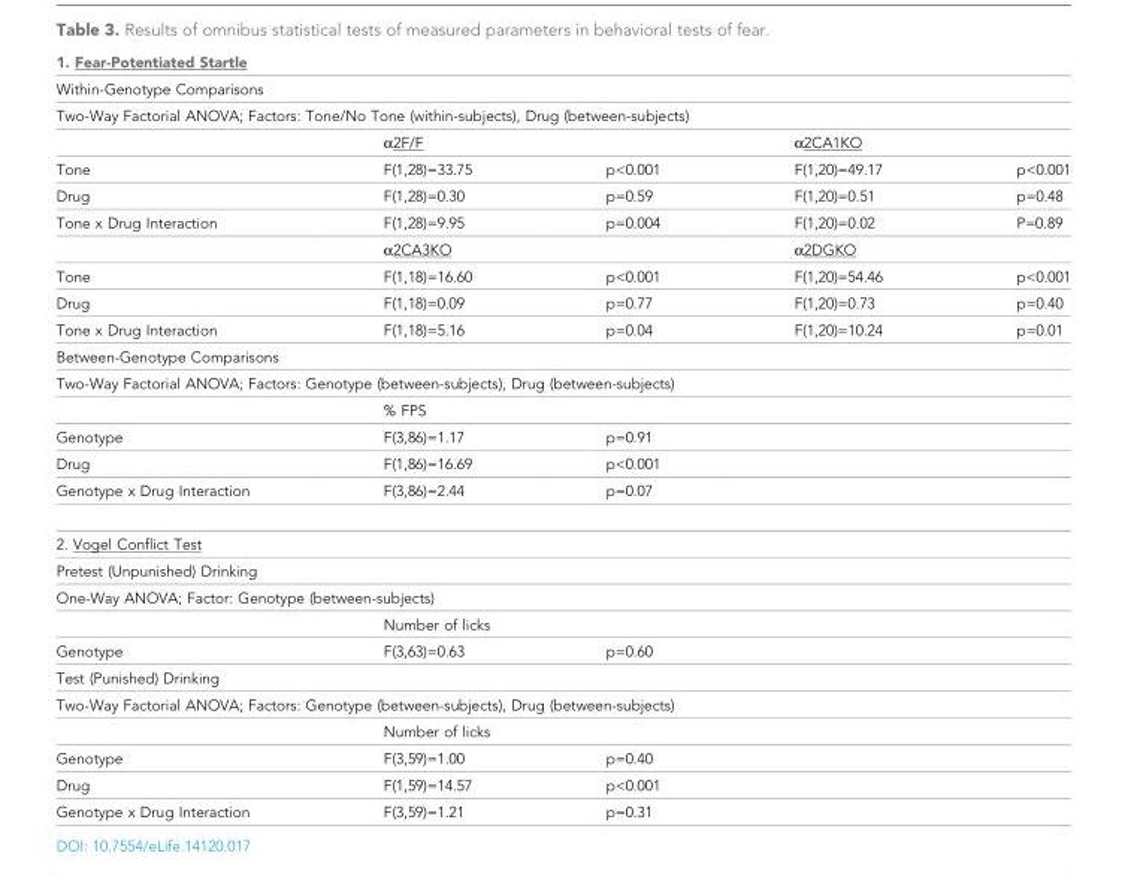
<table><thead><tr><td colspan="5">1. Fear-Potentiated Startle</td></tr></thead><tbody><tr><td colspan="5">Within-Genotype Comparisons</td></tr><tr><td colspan="5">Two-Way Factorial ANOVA; Factors: Tone/No Tone (within-subjects), Drug (between-subjects)</td></tr><tr><td></td><td colspan="2">α2F/F</td><td colspan="2">α2CA1KO</td></tr><tr><td>Tone</td><td>F(1,28)=33.75</td><td>p&lt;0.001</td><td>F(1,20)=49.17</td><td>p&lt;0.001</td></tr><tr><td>Drug</td><td>F(1,28)=0.30</td><td>p=0.59</td><td>F(1,20)=0.51</td><td>p=0.48</td></tr><tr><td rowspan="2">Tone x Drug Interaction</td><td>F(1,28)=9.95</td><td>p=0.004</td><td>F(1,20)=0.02</td><td>P=0.89</td></tr><tr><td colspan="2">α2CA3KO</td><td colspan="2">α2DGKO</td></tr><tr><td>Tone</td><td>F(1,18)=16.60</td><td>p&lt;0.001</td><td>F(1,20)=54.46</td><td>p&lt;0.001</td></tr><tr><td>Drug</td><td>F(1,18)=0.09</td><td>p=0.77</td><td>F(1,20)=0.73</td><td>p=0.40</td></tr><tr><td>Tone x Drug Interaction</td><td>F(1,18)=5.16</td><td>p=0.04</td><td>F(1,20)=10.24</td><td>p=0.01</td></tr><tr><td colspan="5">Between-Genotype Comparisons</td></tr><tr><td colspan="5">Two-Way Factorial ANOVA; Factors: Genotype (between-subjects), Drug (between-subjects)</td></tr><tr><td></td><td colspan="2">% FPS</td><td colspan="2"></td></tr><tr><td>Genotype</td><td>F(3,86)=1.17</td><td>p=0.91</td><td></td><td></td></tr><tr><td>Drug</td><td>F(1,86)=16.69</td><td>p&lt;0.001</td><td></td><td></td></tr><tr><td>Genotype x Drug Interaction</td><td>F(3,86)=2.44</td><td>p=0.07</td><td></td><td></td></tr><tr><td colspan="5">2. Vogel Conflict Test</td></tr><tr><td colspan="5">Pretest (Unpunished) Drinking</td></tr><tr><td colspan="5">One-Way ANOVA; Factor: Genotype (between-subjects)</td></tr><tr><td></td><td colspan="2">Number of licks</td><td colspan="2"></td></tr><tr><td>Genotype</td><td>F(3,63)=0.63</td><td>p=0.60</td><td></td><td></td></tr><tr><td colspan="5">Test (Punished) Drinking</td></tr><tr><td colspan="5">Two-Way Factorial ANOVA; Factors: Genotype (between-subjects), Drug (between-subjects)</td></tr><tr><td></td><td colspan="2">Number of licks</td><td colspan="2"></td></tr><tr><td>Genotype</td><td>F(3,59)=1.00</td><td>p=0.40</td><td></td><td></td></tr><tr><td>Drug</td><td>F(1,59)=14.57</td><td>p&lt;0.001</td><td></td><td></td></tr><tr><td>Genotype x Drug Interaction</td><td>F(3,59)=1.21</td><td>p=0.31</td><td></td><td></td></tr></tbody></table>